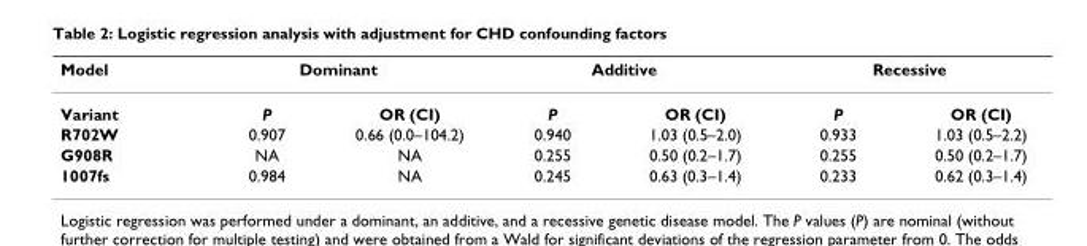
<table><thead><tr><td rowspan="2">Model Variant</td><td colspan="2">Dominant</td><td colspan="2">Additive</td><td colspan="2">Recessive</td></tr><tr><td>P</td><td>OR (CI)</td><td>P</td><td>OR (CI)</td><td>P</td><td>OR (CI)</td></tr></thead><tbody><tr><td>R702W</td><td>0.907</td><td>0.66 (0.0–104.2)</td><td>0.940</td><td>1.03 (0.5–2.0)</td><td>0.933</td><td>1.03 (0.5–2.2)</td></tr><tr><td>G908R</td><td>NA</td><td>NA</td><td>0.255</td><td>0.50 (0.2–1.7)</td><td>0.255</td><td>0.50 (0.2–1.7)</td></tr><tr><td>1007fs</td><td>0.984</td><td>NA</td><td>0.245</td><td>0.63 (0.3–1.4)</td><td>0.233</td><td>0.62 (0.3–1.4)</td></tr></tbody></table>